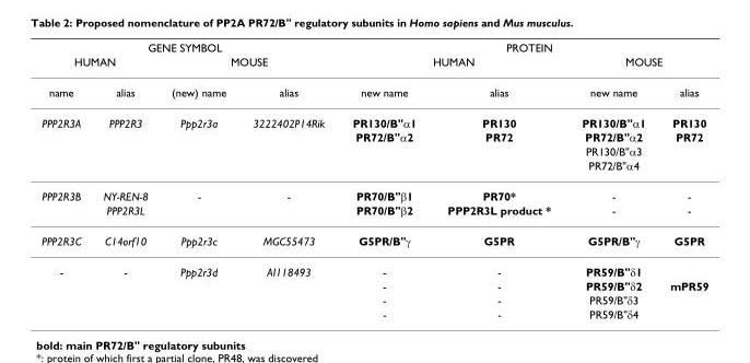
<table><thead><tr><td colspan="4">GENE SYMBOL</td><td colspan="4">PROTEIN</td></tr><tr><td colspan="2">HUMAN</td><td colspan="2">MOUSE</td><td colspan="2">HUMAN</td><td colspan="2">MOUSE</td></tr><tr><td>name</td><td>alias</td><td>(new) name</td><td>alias</td><td>new name</td><td>alias</td><td>new name</td><td>alias</td></tr></thead><tbody><tr><td rowspan="4">PPP2R3A</td><td>PPP2R3</td><td>Ppp2r3a</td><td>3222402P14Rik</td><td>PR130/B&quot;α1</td><td>PR130</td><td>PR130/B&quot;α1</td><td>PR130</td></tr><tr><td></td><td></td><td></td><td>PR72/B&quot;α2</td><td>PR72</td><td>PR72/B&quot;α2</td><td>PR72</td></tr><tr><td></td><td></td><td></td><td></td><td></td><td>PR130/B&quot;α3</td><td></td></tr><tr><td></td><td></td><td></td><td></td><td></td><td>PR72/B&quot;α4</td><td></td></tr><tr><td rowspan="2">PPP2R3B</td><td>NY-REN-8</td><td>-</td><td>-</td><td>PR70/B&quot;β1</td><td>PR70*</td><td>-</td><td>-</td></tr><tr><td>PPP2R3L</td><td></td><td></td><td>PR70/B&quot;β2</td><td>PPP2R3L product *</td><td>-</td><td>-</td></tr><tr><td>PPP2R3C</td><td>C14orf10</td><td>Ppp2r3c</td><td>MGC55473</td><td>G5PR/B&quot;γ</td><td>G5PR</td><td>G5PR/B&quot;γ</td><td>G5PR</td></tr><tr><td rowspan="4">-</td><td>-</td><td>Ppp2r3d</td><td>AI118493</td><td>-</td><td>-</td><td>PR59/B&quot;δ1</td><td></td></tr><tr><td></td><td></td><td></td><td>-</td><td>-</td><td>PR59/B&quot;δ2</td><td>mPR59</td></tr><tr><td></td><td></td><td></td><td>-</td><td>-</td><td>PR59/B&quot;δ3</td><td></td></tr><tr><td></td><td></td><td></td><td>-</td><td>-</td><td>PR59/B&quot;δ4</td><td></td></tr></tbody></table>